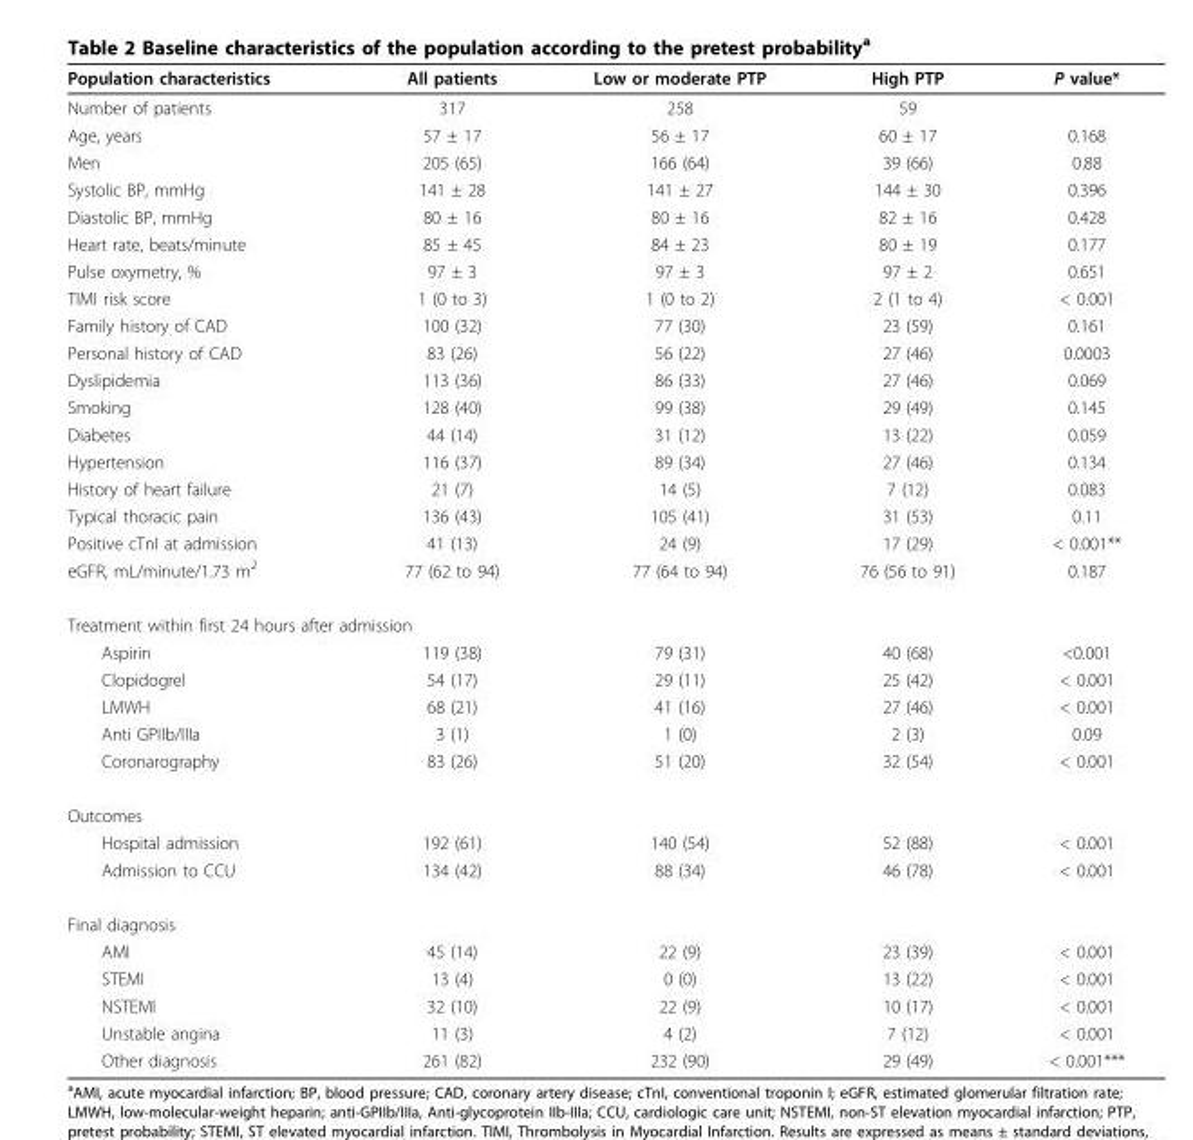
<table><thead><tr><td>Population characteristics</td><td>All patients</td><td>Low or moderate PTP</td><td>High PTP</td><td>P value*</td></tr></thead><tbody><tr><td>Number of patients</td><td>317</td><td>258</td><td>59</td><td></td></tr><tr><td>Age, years</td><td>57 ± 17</td><td>56 ± 17</td><td>60 ± 17</td><td>0.168</td></tr><tr><td>Men</td><td>205 (65)</td><td>166 (64)</td><td>39 (66)</td><td>0.88</td></tr><tr><td>Systolic BP, mmHg</td><td>141 ± 28</td><td>141 ± 27</td><td>144 ± 30</td><td>0.396</td></tr><tr><td>Diastolic BP, mmHg</td><td>80 ± 16</td><td>80 ± 16</td><td>82 ± 16</td><td>0.428</td></tr><tr><td>Heart rate, beats/minute</td><td>85 ± 45</td><td>84 ± 23</td><td>80 ± 19</td><td>0.177</td></tr><tr><td>Pulse oxymetry, %</td><td>97 ± 3</td><td>97 ± 3</td><td>97 ± 2</td><td>0.651</td></tr><tr><td>TIMI risk score</td><td>1 (0 to 3)</td><td>1 (0 to 2)</td><td>2 (1 to 4)</td><td>&lt; 0.001</td></tr><tr><td>Family history of CAD</td><td>100 (32)</td><td>77 (30)</td><td>23 (59)</td><td>0.161</td></tr><tr><td>Personal history of CAD</td><td>83 (26)</td><td>56 (22)</td><td>27 (46)</td><td>0.0003</td></tr><tr><td>Dyslipidemia</td><td>113 (36)</td><td>86 (33)</td><td>27 (46)</td><td>0.069</td></tr><tr><td>Smoking</td><td>128 (40)</td><td>99 (38)</td><td>29 (49)</td><td>0.145</td></tr><tr><td>Diabetes</td><td>44 (14)</td><td>31 (12)</td><td>13 (22)</td><td>0.059</td></tr><tr><td>Hypertension</td><td>116 (37)</td><td>89 (34)</td><td>27 (46)</td><td>0.134</td></tr><tr><td>History of heart failure</td><td>21 (7)</td><td>14 (5)</td><td>7 (12)</td><td>0.083</td></tr><tr><td>Typical thoracic pain</td><td>136 (43)</td><td>105 (41)</td><td>31 (53)</td><td>0.11</td></tr><tr><td>Positive cTnI at admission</td><td>41 (13)</td><td>24 (9)</td><td>17 (29)</td><td>&lt; 0.001**</td></tr><tr><td>eGFR, mL/minute/1.73 m<sup>2</sup></td><td>77 (62 to 94)</td><td>77 (64 to 94)</td><td>76 (56 to 91)</td><td>0.187</td></tr><tr><td colspan="5">Treatment within first 24 hours after admission</td></tr><tr><td>Aspirin</td><td>119 (38)</td><td>79 (31)</td><td>40 (68)</td><td>&lt;0.001</td></tr><tr><td>Clopidogrel</td><td>54 (17)</td><td>29 (11)</td><td>25 (42)</td><td>&lt; 0.001</td></tr><tr><td>LMWH</td><td>68 (21)</td><td>41 (16)</td><td>27 (46)</td><td>&lt; 0.001</td></tr><tr><td>Anti GPIIb/IIIa</td><td>3 (1)</td><td>1 (0)</td><td>2 (3)</td><td>0.09</td></tr><tr><td>Coronarography</td><td>83 (26)</td><td>51 (20)</td><td>32 (54)</td><td>&lt; 0.001</td></tr><tr><td colspan="5">Outcomes</td></tr><tr><td>Hospital admission</td><td>192 (61)</td><td>140 (54)</td><td>52 (88)</td><td>&lt; 0.001</td></tr><tr><td>Admission to CCU</td><td>134 (42)</td><td>88 (34)</td><td>46 (78)</td><td>&lt; 0.001</td></tr><tr><td colspan="5">Final diagnosis</td></tr><tr><td>AMI</td><td>45 (14)</td><td>22 (9)</td><td>23 (39)</td><td>&lt; 0.001</td></tr><tr><td>STEMI</td><td>13 (4)</td><td>0 (0)</td><td>13 (22)</td><td>&lt; 0.001</td></tr><tr><td>NSTEMI</td><td>32 (10)</td><td>22 (9)</td><td>10 (17)</td><td>&lt; 0.001</td></tr><tr><td>Unstable angina</td><td>11 (3)</td><td>4 (2)</td><td>7 (12)</td><td>&lt; 0.001</td></tr><tr><td>Other diagnosis</td><td>261 (82)</td><td>232 (90)</td><td>29 (49)</td><td>&lt; 0.001***</td></tr></tbody></table>